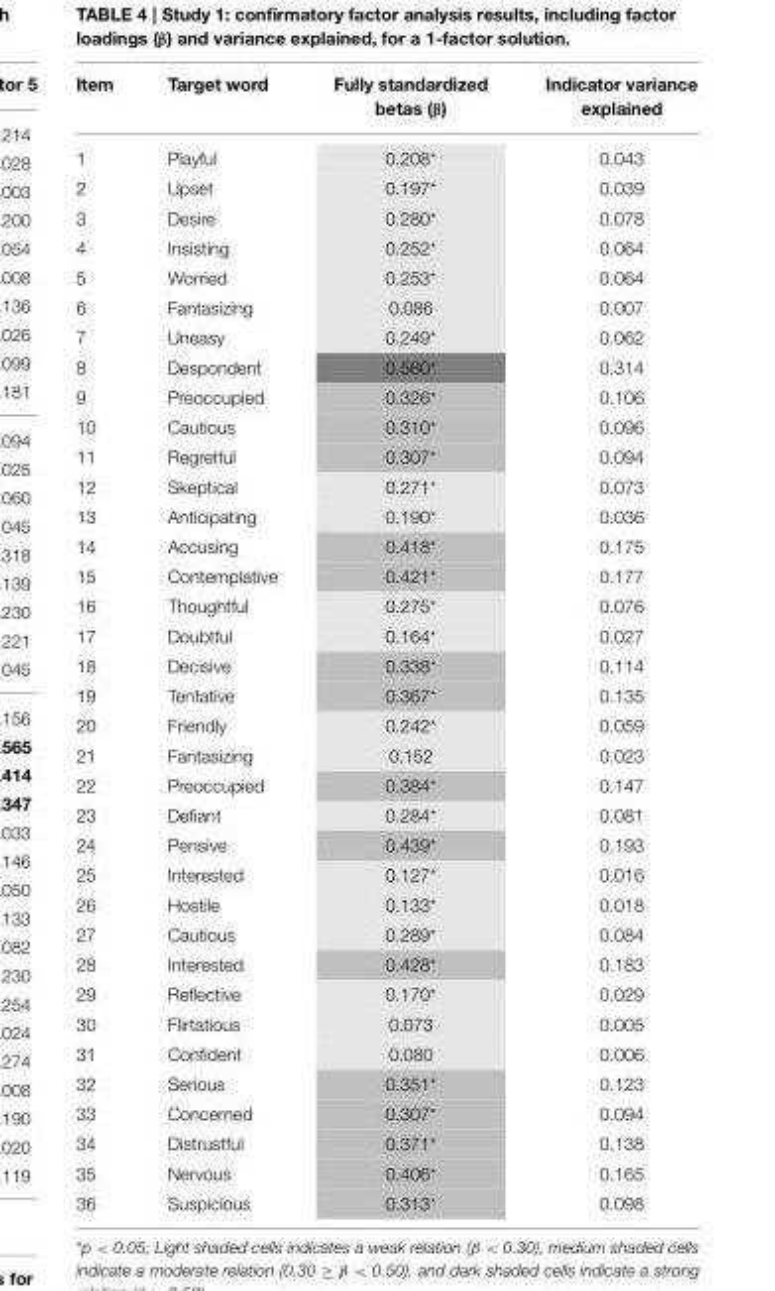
<table><thead><tr><td>Item</td><td>Target word</td><td>Fully standardized betas (β)</td><td>Indicator variance explained</td></tr></thead><tbody><tr><td>1</td><td>Playful</td><td>0.208*</td><td>0.043</td></tr><tr><td>2</td><td>Upset</td><td>0.197*</td><td>0.039</td></tr><tr><td>3</td><td>Desire</td><td>0.280*</td><td>0.078</td></tr><tr><td>4</td><td>Insisting</td><td>0.252*</td><td>0.064</td></tr><tr><td>5</td><td>Worried</td><td>0.253*</td><td>0.064</td></tr><tr><td>6</td><td>Fantasizing</td><td>0.086</td><td>0.007</td></tr><tr><td>7</td><td>Uneasy</td><td>0.249*</td><td>0.062</td></tr><tr><td>8</td><td>Despondent</td><td>0.560*</td><td>0.314</td></tr><tr><td>9</td><td>Preoccupied</td><td>0.326*</td><td>0.106</td></tr><tr><td>10</td><td>Cautious</td><td>0.310*</td><td>0.096</td></tr><tr><td>11</td><td>Regretful</td><td>0.307*</td><td>0.094</td></tr><tr><td>12</td><td>Skeptical</td><td>0.271*</td><td>0.073</td></tr><tr><td>13</td><td>Anticipating</td><td>0.190*</td><td>0.036</td></tr><tr><td>14</td><td>Accusing</td><td>0.418*</td><td>0.175</td></tr><tr><td>15</td><td>Contemplative</td><td>0.421*</td><td>0.177</td></tr><tr><td>16</td><td>Thoughtful</td><td>0.275*</td><td>0.076</td></tr><tr><td>17</td><td>Doubtful</td><td>0.164*</td><td>0.027</td></tr><tr><td>18</td><td>Decisive</td><td>0.338*</td><td>0.114</td></tr><tr><td>19</td><td>Tentative</td><td>0.367*</td><td>0.135</td></tr><tr><td>20</td><td>Friendly</td><td>0.242*</td><td>0.059</td></tr><tr><td>21</td><td>Fantasizing</td><td>0.152</td><td>0.023</td></tr><tr><td>22</td><td>Preoccupied</td><td>0.384*</td><td>0.147</td></tr><tr><td>23</td><td>Defiant</td><td>0.284*</td><td>0.081</td></tr><tr><td>24</td><td>Pensive</td><td>0.439*</td><td>0.193</td></tr><tr><td>25</td><td>Interested</td><td>0.127*</td><td>0.016</td></tr><tr><td>26</td><td>Hostile</td><td>0.133*</td><td>0.018</td></tr><tr><td>27</td><td>Cautious</td><td>0.289*</td><td>0.084</td></tr><tr><td>28</td><td>Interested</td><td>0.428*</td><td>0.183</td></tr><tr><td>29</td><td>Reflective</td><td>0.170*</td><td>0.029</td></tr><tr><td>30</td><td>Flirtatious</td><td>0.073</td><td>0.005</td></tr><tr><td>31</td><td>Confident</td><td>0.080</td><td>0.006</td></tr><tr><td>32</td><td>Serious</td><td>0.351*</td><td>0.123</td></tr><tr><td>33</td><td>Concerned</td><td>0.307*</td><td>0.094</td></tr><tr><td>34</td><td>Distrustful</td><td>0.371*</td><td>0.138</td></tr><tr><td>35</td><td>Nervous</td><td>0.406*</td><td>0.165</td></tr><tr><td>36</td><td>Suspicious</td><td>0.313*</td><td>0.098</td></tr></tbody></table>